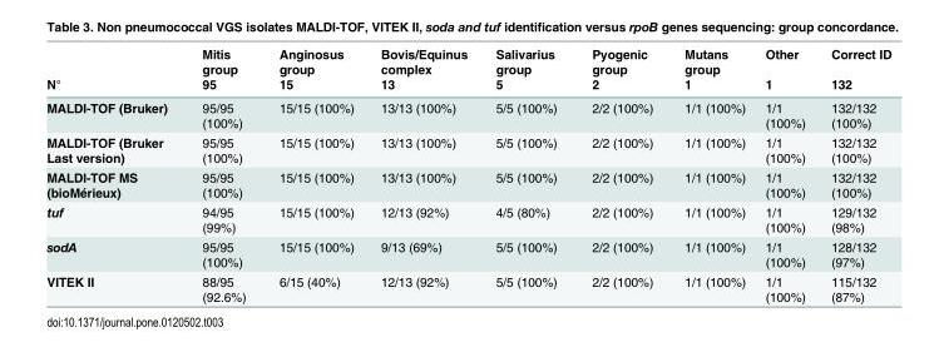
<table><thead><tr><td rowspan="2">N°</td><td rowspan="2">Mitis group 95</td><td rowspan="2">Anginosus group 15</td><td rowspan="2">Bovis/Equinus complex 13</td><td rowspan="2">Salivarius group 5</td><td rowspan="2">Pyogenic group 2</td><td rowspan="2">Mutans group 1</td><td rowspan="2">Other 1</td><td rowspan="2">Correct ID 132</td></tr><tr></tr></thead><tbody><tr><td>MALDI-TOF (Bruker)</td><td>95/95 (100%)</td><td>15/15 (100%)</td><td>13/13 (100%)</td><td>5/5 (100%)</td><td>2/2 (100%)</td><td>1/1 (100%)</td><td>1/1 (100%)</td><td>132/132 (100%)</td></tr><tr><td>MALDI-TOF (Bruker Last version)</td><td>95/95 (100%)</td><td>15/15 (100%)</td><td>13/13 (100%)</td><td>5/5 (100%)</td><td>2/2 (100%)</td><td>1/1 (100%)</td><td>1/1 (100%)</td><td>132/132 (100%)</td></tr><tr><td>MALDI-TOF MS (bioMérieux)</td><td>95/95 (100%)</td><td>15/15 (100%)</td><td>13/13 (100%)</td><td>5/5 (100%)</td><td>2/2 (100%)</td><td>1/1 (100%)</td><td>1/1 (100%)</td><td>132/132 (100%)</td></tr><tr><td>tuf</td><td>94/95 (99%)</td><td>15/15 (100%)</td><td>12/13 (92%)</td><td>4/5 (80%)</td><td>2/2 (100%)</td><td>1/1 (100%)</td><td>1/1 (100%)</td><td>129/132 (98%)</td></tr><tr><td>sodA</td><td>95/95 (100%)</td><td>15/15 (100%)</td><td>9/13 (69%)</td><td>5/5 (100%)</td><td>2/2 (100%)</td><td>1/1 (100%)</td><td>1/1 (100%)</td><td>128/132 (97%)</td></tr><tr><td>VITEK II</td><td>88/95 (92.6%)</td><td>6/15 (40%)</td><td>12/13 (92%)</td><td>5/5 (100%)</td><td>2/2 (100%)</td><td>1/1 (100%)</td><td>1/1 (100%)</td><td>115/132 (87%)</td></tr></tbody></table>